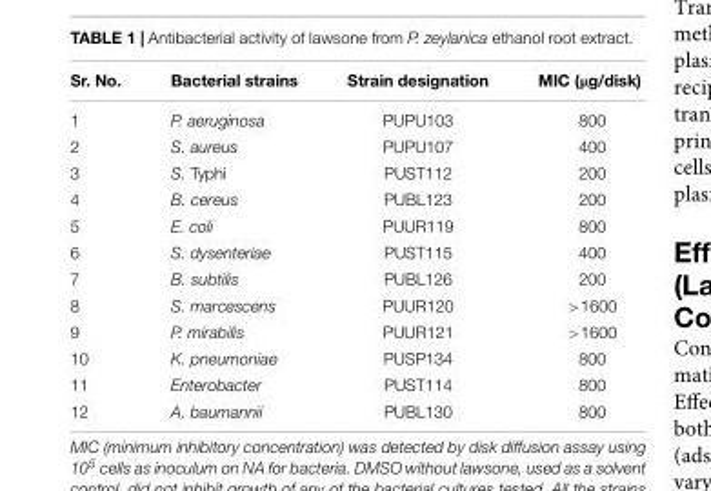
<table><thead><tr><td>Sr. No.</td><td>Bacterial strains</td><td>Strain designation</td><td>MIC (µg/disk)</td></tr></thead><tbody><tr><td>1</td><td>P. aeruginosa</td><td>PUPU103</td><td>800</td></tr><tr><td>2</td><td>S. aureus</td><td>PUPU107</td><td>400</td></tr><tr><td>3</td><td>S. Typhi</td><td>PUST112</td><td>200</td></tr><tr><td>4</td><td>B. cereus</td><td>PUBL123</td><td>200</td></tr><tr><td>5</td><td>E. coli</td><td>PUUR119</td><td>800</td></tr><tr><td>6</td><td>S. dysenteriae</td><td>PUST115</td><td>400</td></tr><tr><td>7</td><td>B. subtilis</td><td>PUBL126</td><td>200</td></tr><tr><td>8</td><td>S. marcescens</td><td>PUUR120</td><td>&gt;1600</td></tr><tr><td>9</td><td>P. mirabilis</td><td>PUUR121</td><td>&gt;1600</td></tr><tr><td>10</td><td>K. pneumoniae</td><td>PUSP134</td><td>800</td></tr><tr><td>11</td><td>Enterobacter</td><td>PUST114</td><td>800</td></tr><tr><td>12</td><td>A. baumannii</td><td>PUBL130</td><td>800</td></tr></tbody></table>